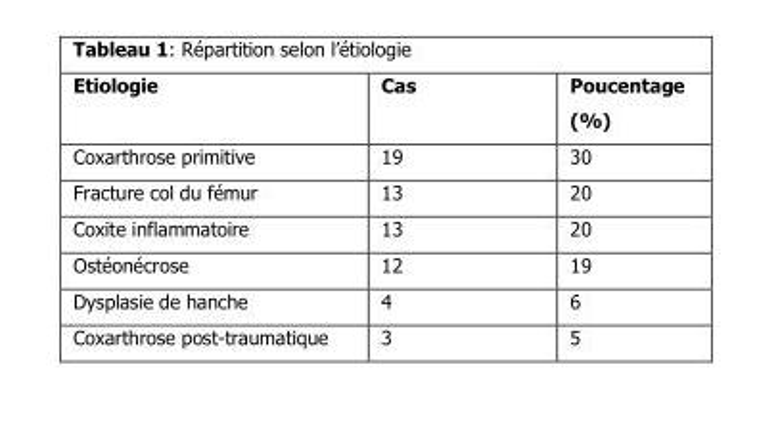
<table><thead><tr><td>Etiologie</td><td>Cas</td><td>Poucentage (%)</td></tr></thead><tbody><tr><td>Coxarthrose primitive</td><td>19</td><td>30</td></tr><tr><td>Fracture col du fémur</td><td>13</td><td>20</td></tr><tr><td>Coxite inflammatoire</td><td>13</td><td>20</td></tr><tr><td>Ostéonécrose</td><td>12</td><td>19</td></tr><tr><td>Dysplasie de hanche</td><td>4</td><td>6</td></tr><tr><td>Coxarthrose post-traumatique</td><td>3</td><td>5</td></tr></tbody></table>